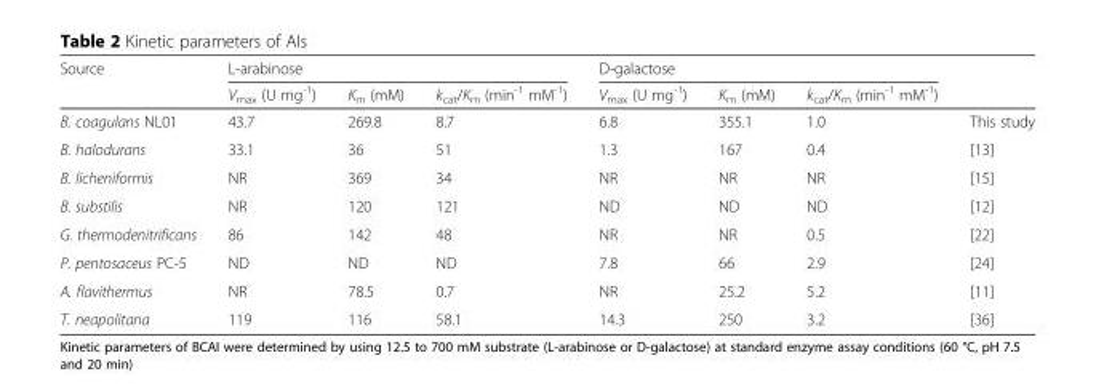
<table><thead><tr><td rowspan="2">Source</td><td colspan="3">L-arabinose</td><td colspan="3">D-galactose</td><td rowspan="2"></td></tr><tr><td>V<sub>max</sub> (U mg<sup>-1</sup>)</td><td>K<sub>m</sub> (mM)</td><td>k<sub>cat</sub>/K<sub>m</sub> (min<sup>-1</sup> mM<sup>-1</sup>)</td><td>V<sub>max</sub> (U mg<sup>-1</sup>)</td><td>K<sub>m</sub> (mM)</td><td>k<sub>cat</sub>/K<sub>m</sub> (min<sup>-1</sup> mM<sup>-1</sup>)</td></tr></thead><tbody><tr><td>B. coagulans NL01</td><td>43.7</td><td>269.8</td><td>8.7</td><td>6.8</td><td>355.1</td><td>1.0</td><td>This study</td></tr><tr><td>B. halodurans</td><td>33.1</td><td>36</td><td>51</td><td>1.3</td><td>167</td><td>0.4</td><td>[13]</td></tr><tr><td>B. licheniformis</td><td>NR</td><td>369</td><td>34</td><td>NR</td><td>NR</td><td>NR</td><td>[15]</td></tr><tr><td>B. substilis</td><td>NR</td><td>120</td><td>121</td><td>ND</td><td>ND</td><td>ND</td><td>[12]</td></tr><tr><td>G. thermodenitrificans</td><td>86</td><td>142</td><td>48</td><td>NR</td><td>NR</td><td>0.5</td><td>[22]</td></tr><tr><td>P. pentosaceus PC-5</td><td>ND</td><td>ND</td><td>ND</td><td>7.8</td><td>66</td><td>2.9</td><td>[24]</td></tr><tr><td>A. flavithermus</td><td>NR</td><td>78.5</td><td>0.7</td><td>NR</td><td>25.2</td><td>5.2</td><td>[11]</td></tr><tr><td>T. neapolitana</td><td>119</td><td>116</td><td>58.1</td><td>14.3</td><td>250</td><td>3.2</td><td>[36]</td></tr></tbody></table>